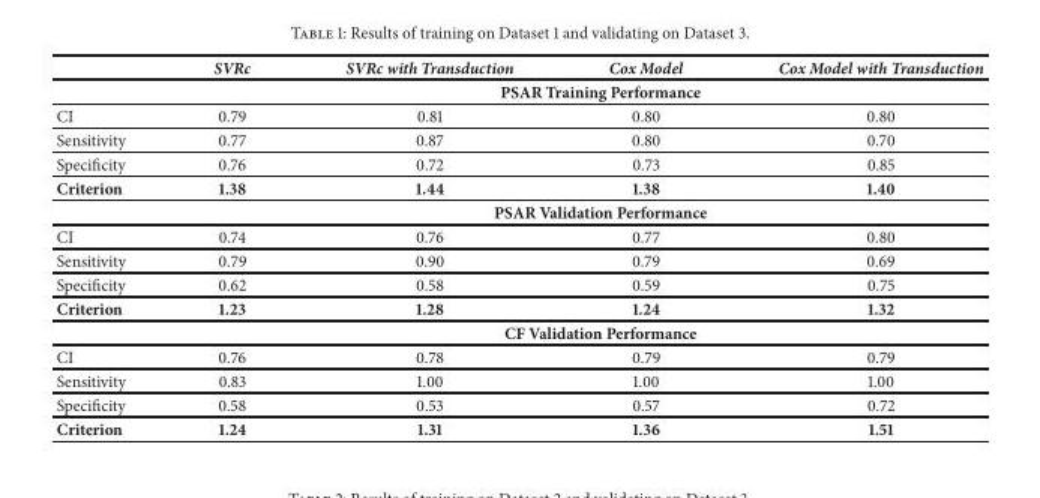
<table><thead><tr><td></td><td>SVRc</td><td>SVRc with Transduction</td><td>Cox Model</td><td>Cox Model with Transduction</td></tr></thead><tbody><tr><td></td><td colspan="4">PSAR Training Performance</td></tr><tr><td>CI</td><td>0.79</td><td>0.81</td><td>0.80</td><td>0.80</td></tr><tr><td>Sensitivity</td><td>0.77</td><td>0.87</td><td>0.80</td><td>0.70</td></tr><tr><td>Specificity</td><td>0.76</td><td>0.72</td><td>0.73</td><td>0.85</td></tr><tr><td rowspan="2">Criterion</td><td>1.38</td><td>1.44</td><td>1.38</td><td>1.40</td></tr><tr><td colspan="4">PSAR Validation Performance</td></tr><tr><td>CI</td><td>0.74</td><td>0.76</td><td>0.77</td><td>0.80</td></tr><tr><td>Sensitivity</td><td>0.79</td><td>0.90</td><td>0.79</td><td>0.69</td></tr><tr><td>Specificity</td><td>0.62</td><td>0.58</td><td>0.59</td><td>0.75</td></tr><tr><td rowspan="2">Criterion</td><td>1.23</td><td>1.28</td><td>1.24</td><td>1.32</td></tr><tr><td colspan="4">CF Validation Performance</td></tr><tr><td>CI</td><td>0.76</td><td>0.78</td><td>0.79</td><td>0.79</td></tr><tr><td>Sensitivity</td><td>0.83</td><td>1.00</td><td>1.00</td><td>1.00</td></tr><tr><td>Specificity</td><td>0.58</td><td>0.53</td><td>0.57</td><td>0.72</td></tr><tr><td>Criterion</td><td>1.24</td><td>1.31</td><td>1.36</td><td>1.51</td></tr></tbody></table>